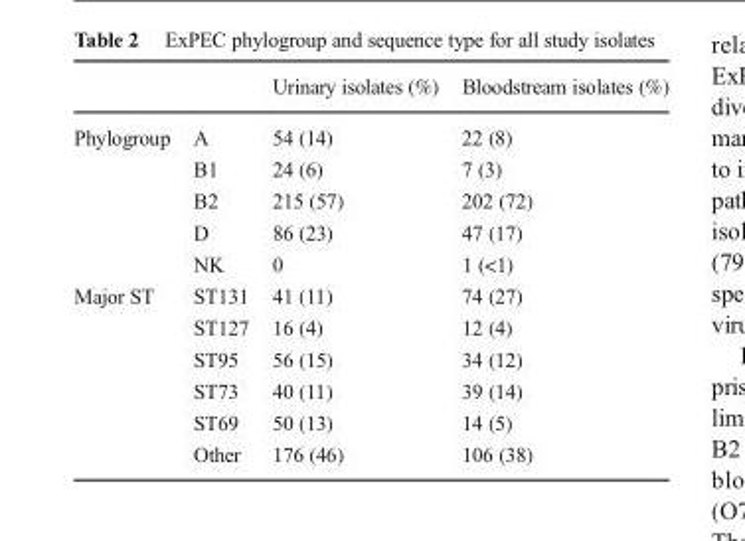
<table><thead><tr><td></td><td></td><td>Urinary isolates (%)</td><td>Bloodstream isolates (%)</td></tr></thead><tbody><tr><td rowspan="5">Phylogroup</td><td>A</td><td>54 (14)</td><td>22 (8)</td></tr><tr><td>B1</td><td>24 (6)</td><td>7 (3)</td></tr><tr><td>B2</td><td>215 (57)</td><td>202 (72)</td></tr><tr><td>D</td><td>86 (23)</td><td>47 (17)</td></tr><tr><td>NK</td><td>0</td><td>1 (&lt;1)</td></tr><tr><td rowspan="6">Major ST</td><td>ST131</td><td>41 (11)</td><td>74 (27)</td></tr><tr><td>ST127</td><td>16 (4)</td><td>12 (4)</td></tr><tr><td>ST95</td><td>56 (15)</td><td>34 (12)</td></tr><tr><td>ST73</td><td>40 (11)</td><td>39 (14)</td></tr><tr><td>ST69</td><td>50 (13)</td><td>14 (5)</td></tr><tr><td>Other</td><td>176 (46)</td><td>106 (38)</td></tr></tbody></table>